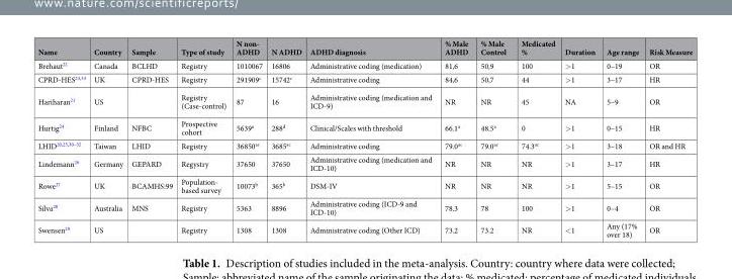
<table><thead><tr><td>Name</td><td>Country</td><td>Sample</td><td>Type of study</td><td>N non- ADHD</td><td>N ADHD</td><td>ADHD diagnosis</td><td>% Male ADHD</td><td>% Male Control</td><td>Medicated %</td><td>Duration</td><td>Age range</td><td>Risk Measure</td></tr></thead><tbody><tr><td>Brehaut<sup>22</sup></td><td>Canada</td><td>BCLHD</td><td>Registry</td><td>1010067</td><td>16806</td><td>Administrative coding (medication)</td><td>81,6</td><td>50,9</td><td>100</td><td>&gt;1</td><td>0–19</td><td>OR</td></tr><tr><td>CPRD-HES<sup>23,33</sup></td><td>UK</td><td>CPRD-HES</td><td>Registry</td><td>291909<sup>c</sup></td><td>15742<sup>c</sup></td><td>Administrative coding</td><td>84,6</td><td>50,7</td><td>44</td><td>&gt;1</td><td>3–17</td><td>HR</td></tr><tr><td>Hariharan<sup>21</sup></td><td>US</td><td></td><td>Registry (Case-control)</td><td>87</td><td>16</td><td>Administrative coding (medication and ICD-9)</td><td>NR</td><td>NR</td><td>45</td><td>NA</td><td>5–9</td><td>OR</td></tr><tr><td>Hurtig<sup>24</sup></td><td>Finland</td><td>NFBC</td><td>Prospective cohort</td><td>5639<sup>a</sup></td><td>288<sup>d</sup></td><td>Clinical/Scales with threshold</td><td>66.1<sup>a</sup></td><td>48.5<sup>a</sup></td><td>0</td><td>&gt;1</td><td>0–15</td><td>HR</td></tr><tr><td>LHID<sup>20,25,30–32</sup></td><td>Taiwan</td><td>LHID</td><td>Registry</td><td>36850<sup>ac</sup></td><td>3685<sup>ac</sup></td><td>Administrative coding</td><td>79.0<sup>ac</sup></td><td>79.0<sup>ac</sup></td><td>74.3<sup>ac</sup></td><td>&gt;1</td><td>3–18</td><td>OR and HR</td></tr><tr><td>Lindemann<sup>26</sup></td><td>Germany</td><td>GEPARD</td><td>Regystry</td><td>37650</td><td>37650</td><td>Administrative coding (medication and ICD-10)</td><td>NR</td><td>NR</td><td>NR</td><td>&gt;1</td><td>3–17</td><td>HR</td></tr><tr><td>Rowe<sup>27</sup></td><td>UK</td><td>BCAMHS:99</td><td>Population- based survey</td><td>10073<sup>b</sup></td><td>365<sup>b</sup></td><td>DSM-IV</td><td>NR</td><td>NR</td><td>NR</td><td>&gt;1</td><td>5–15</td><td>OR</td></tr><tr><td>Silva<sup>28</sup></td><td>Australia</td><td>MNS</td><td>Registry</td><td>5363</td><td>8896</td><td>Administrative coding (ICD-9 and ICD-10)</td><td>78.3</td><td>78</td><td>100</td><td>&gt;1</td><td>0–4</td><td>OR</td></tr><tr><td>Swensen<sup>29</sup></td><td>US</td><td></td><td>Registry</td><td>1308</td><td>1308</td><td>Administrative coding (Other ICD)</td><td>73.2</td><td>73.2</td><td>NR</td><td>&lt;1</td><td>Any (17% over 18)</td><td>OR</td></tr></tbody></table>